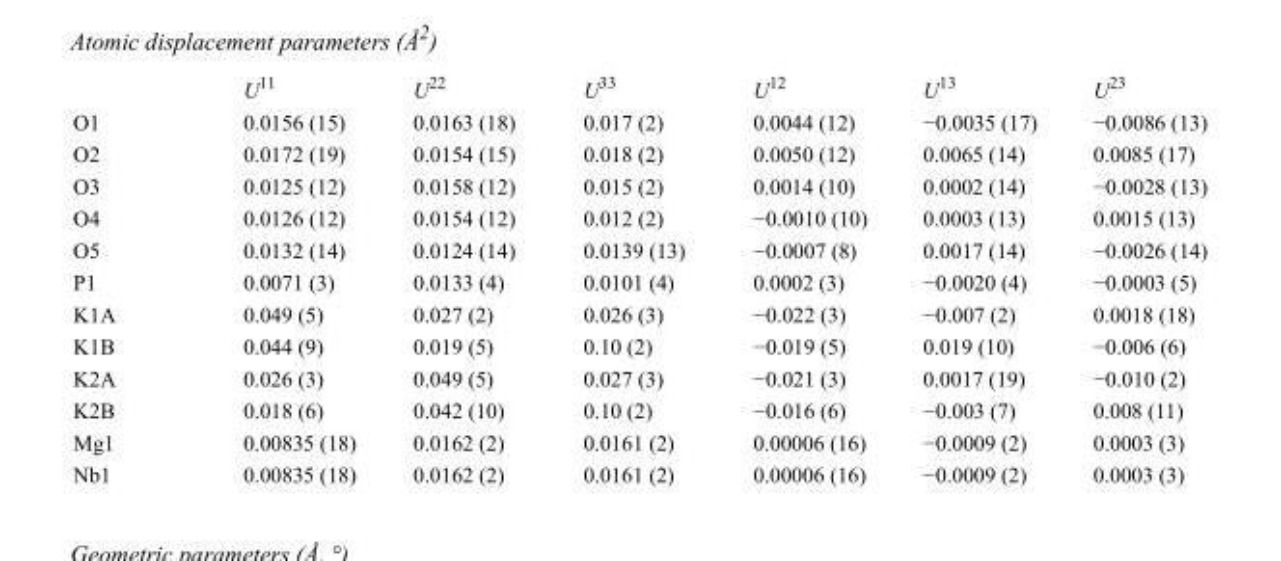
<table><thead><tr><td></td><td>U<sup>11</sup></td><td>U<sup>22</sup></td><td>U<sup>33</sup></td><td>U<sup>12</sup></td><td>U<sup>13</sup></td><td>U<sup>23</sup></td></tr></thead><tbody><tr><td>O1</td><td>0.0156 (15)</td><td>0.0163 (18)</td><td>0.017 (2)</td><td>0.0044 (12)</td><td>−0.0035 (17)</td><td>−0.0086 (13)</td></tr><tr><td>O2</td><td>0.0172 (19)</td><td>0.0154 (15)</td><td>0.018 (2)</td><td>0.0050 (12)</td><td>0.0065 (14)</td><td>0.0085 (17)</td></tr><tr><td>O3</td><td>0.0125 (12)</td><td>0.0158 (12)</td><td>0.015 (2)</td><td>0.0014 (10)</td><td>0.0002 (14)</td><td>−0.0028 (13)</td></tr><tr><td>O4</td><td>0.0126 (12)</td><td>0.0154 (12)</td><td>0.012 (2)</td><td>−0.0010 (10)</td><td>0.0003 (13)</td><td>0.0015 (13)</td></tr><tr><td>O5</td><td>0.0132 (14)</td><td>0.0124 (14)</td><td>0.0139 (13)</td><td>−0.0007 (8)</td><td>0.0017 (14)</td><td>−0.0026 (14)</td></tr><tr><td>P1</td><td>0.0071 (3)</td><td>0.0133 (4)</td><td>0.0101 (4)</td><td>0.0002 (3)</td><td>−0.0020 (4)</td><td>−0.0003 (5)</td></tr><tr><td>K1A</td><td>0.049 (5)</td><td>0.027 (2)</td><td>0.026 (3)</td><td>−0.022 (3)</td><td>−0.007 (2)</td><td>0.0018 (18)</td></tr><tr><td>K1B</td><td>0.044 (9)</td><td>0.019 (5)</td><td>0.10 (2)</td><td>−0.019 (5)</td><td>0.019 (10)</td><td>−0.006 (6)</td></tr><tr><td>K2A</td><td>0.026 (3)</td><td>0.049 (5)</td><td>0.027 (3)</td><td>−0.021 (3)</td><td>0.0017 (19)</td><td>−0.010 (2)</td></tr><tr><td>K2B</td><td>0.018 (6)</td><td>0.042 (10)</td><td>0.10 (2)</td><td>−0.016 (6)</td><td>−0.003 (7)</td><td>0.008 (11)</td></tr><tr><td>Mg1</td><td>0.00835 (18)</td><td>0.0162 (2)</td><td>0.0161 (2)</td><td>0.00006 (16)</td><td>−0.0009 (2)</td><td>0.0003 (3)</td></tr><tr><td>Nb1</td><td>0.00835 (18)</td><td>0.0162 (2)</td><td>0.0161 (2)</td><td>0.00006 (16)</td><td>−0.0009 (2)</td><td>0.0003 (3)</td></tr></tbody></table>